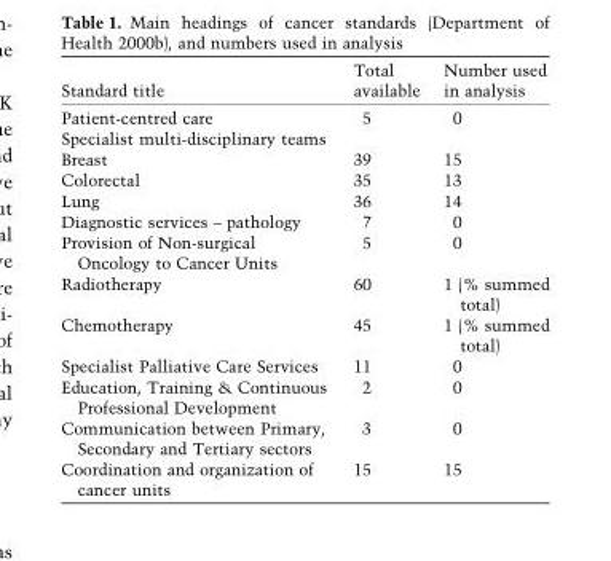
<table><thead><tr><td>Standard title</td><td>Total available</td><td>Number used in analysis</td></tr></thead><tbody><tr><td>Patient-centred care</td><td>5</td><td>0</td></tr><tr><td colspan="3">Specialist multi-disciplinary teams</td></tr><tr><td>Breast</td><td>39</td><td>15</td></tr><tr><td>Colorectal</td><td>35</td><td>13</td></tr><tr><td>Lung</td><td>36</td><td>14</td></tr><tr><td>Diagnostic services – pathology</td><td>7</td><td>0</td></tr><tr><td>Provision of Non-surgical Oncology to Cancer Units</td><td>5</td><td>0</td></tr><tr><td>Radiotherapy</td><td>60</td><td>1 (% summed total)</td></tr><tr><td>Chemotherapy</td><td>45</td><td>1 (% summed total)</td></tr><tr><td>Specialist Palliative Care Services</td><td>11</td><td>0</td></tr><tr><td>Education, Training &amp; Continuous Professional Development</td><td>2</td><td>0</td></tr><tr><td>Communication between Primary, Secondary and Tertiary sectors</td><td>3</td><td>0</td></tr><tr><td>Coordination and organization of cancer units</td><td>15</td><td>15</td></tr></tbody></table>